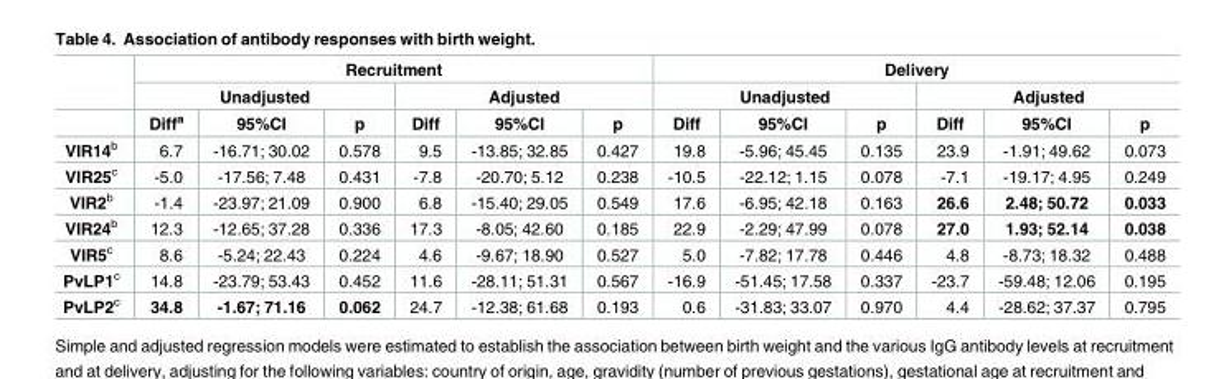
<table><thead><tr><td rowspan="3"></td><td colspan="6">Recruitment</td><td colspan="6">Delivery</td></tr><tr><td colspan="3">Unadjusted</td><td colspan="3">Adjusted</td><td colspan="3">Unadjusted</td><td colspan="3">Adjusted</td></tr><tr><td>Diff<sup>a</sup></td><td>95%CI</td><td>p</td><td>Diff</td><td>95%CI</td><td>p</td><td>Diff</td><td>95%CI</td><td>p</td><td>Diff</td><td>95%CI</td><td>p</td></tr></thead><tbody><tr><td>VIR14<sup>b</sup></td><td>6.7</td><td>-16.71; 30.02</td><td>0.578</td><td>9.5</td><td>-13.85; 32.85</td><td>0.427</td><td>19.8</td><td>-5.96; 45.45</td><td>0.135</td><td>23.9</td><td>-1.91; 49.62</td><td>0.073</td></tr><tr><td>VIR25<sup>c</sup></td><td>-5.0</td><td>-17.56; 7.48</td><td>0.431</td><td>-7.8</td><td>-20.70; 5.12</td><td>0.238</td><td>-10.5</td><td>-22.12; 1.15</td><td>0.078</td><td>-7.1</td><td>-19.17; 4.95</td><td>0.249</td></tr><tr><td>VIR2<sup>b</sup></td><td>-1.4</td><td>-23.97; 21.09</td><td>0.900</td><td>6.8</td><td>-15.40; 29.05</td><td>0.549</td><td>17.6</td><td>-6.95; 42.18</td><td>0.163</td><td>26.6</td><td>2.48; 50.72</td><td>0.033</td></tr><tr><td>VIR24<sup>b</sup></td><td>12.3</td><td>-12.65; 37.28</td><td>0.336</td><td>17.3</td><td>-8.05; 42.60</td><td>0.185</td><td>22.9</td><td>-2.29; 47.99</td><td>0.078</td><td>27.0</td><td>1.93; 52.14</td><td>0.038</td></tr><tr><td>VIR5<sup>c</sup></td><td>8.6</td><td>-5.24; 22.43</td><td>0.224</td><td>4.6</td><td>-9.67; 18.90</td><td>0.527</td><td>5.0</td><td>-7.82; 17.78</td><td>0.446</td><td>4.8</td><td>-8.73; 18.32</td><td>0.488</td></tr><tr><td>PvLP1<sup>c</sup></td><td>14.8</td><td>-23.79; 53.43</td><td>0.452</td><td>11.6</td><td>-28.11; 51.31</td><td>0.567</td><td>-16.9</td><td>-51.45; 17.58</td><td>0.337</td><td>-23.7</td><td>-59.48; 12.06</td><td>0.195</td></tr><tr><td>PvLP2<sup>c</sup></td><td>34.8</td><td>-1.67; 71.16</td><td>0.062</td><td>24.7</td><td>-12.38; 61.68</td><td>0.193</td><td>0.6</td><td>-31.83; 33.07</td><td>0.970</td><td>4.4</td><td>-28.62; 37.37</td><td>0.795</td></tr></tbody></table>